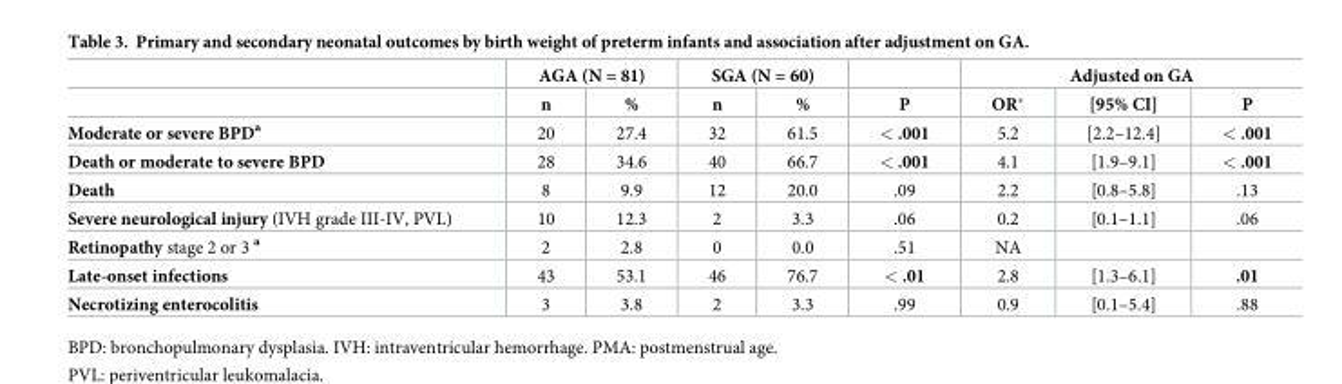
<table><thead><tr><td rowspan="2"></td><td colspan="2">AGA (N = 81)</td><td colspan="2">SGA (N = 60)</td><td rowspan="2">P</td><td colspan="3">Adjusted on GA</td></tr><tr><td>n</td><td>%</td><td>n</td><td>%</td><td>OR*</td><td>[95% CI]</td><td>P</td></tr></thead><tbody><tr><td>Moderate or severe BPD<sup>a</sup></td><td>20</td><td>27.4</td><td>32</td><td>61.5</td><td>&lt; .001</td><td>5.2</td><td>[2.2–12.4]</td><td>&lt; .001</td></tr><tr><td>Death or moderate to severe BPD</td><td>28</td><td>34.6</td><td>40</td><td>66.7</td><td>&lt; .001</td><td>4.1</td><td>[1.9–9.1]</td><td>&lt; .001</td></tr><tr><td>Death</td><td>8</td><td>9.9</td><td>12</td><td>20.0</td><td>.09</td><td>2.2</td><td>[0.8–5.8]</td><td>.13</td></tr><tr><td>Severe neurological injury (IVH grade III-IV, PVL)</td><td>10</td><td>12.3</td><td>2</td><td>3.3</td><td>.06</td><td>0.2</td><td>[0.1–1.1]</td><td>.06</td></tr><tr><td>Retinopathy stage 2 or 3 <sup>a</sup></td><td>2</td><td>2.8</td><td>0</td><td>0.0</td><td>.51</td><td>NA</td><td></td><td></td></tr><tr><td>Late-onset infections</td><td>43</td><td>53.1</td><td>46</td><td>76.7</td><td>&lt; .01</td><td>2.8</td><td>[1.3–6.1]</td><td>.01</td></tr><tr><td>Necrotizing enterocolitis</td><td>3</td><td>3.8</td><td>2</td><td>3.3</td><td>.99</td><td>0.9</td><td>[0.1–5.4]</td><td>.88</td></tr></tbody></table>